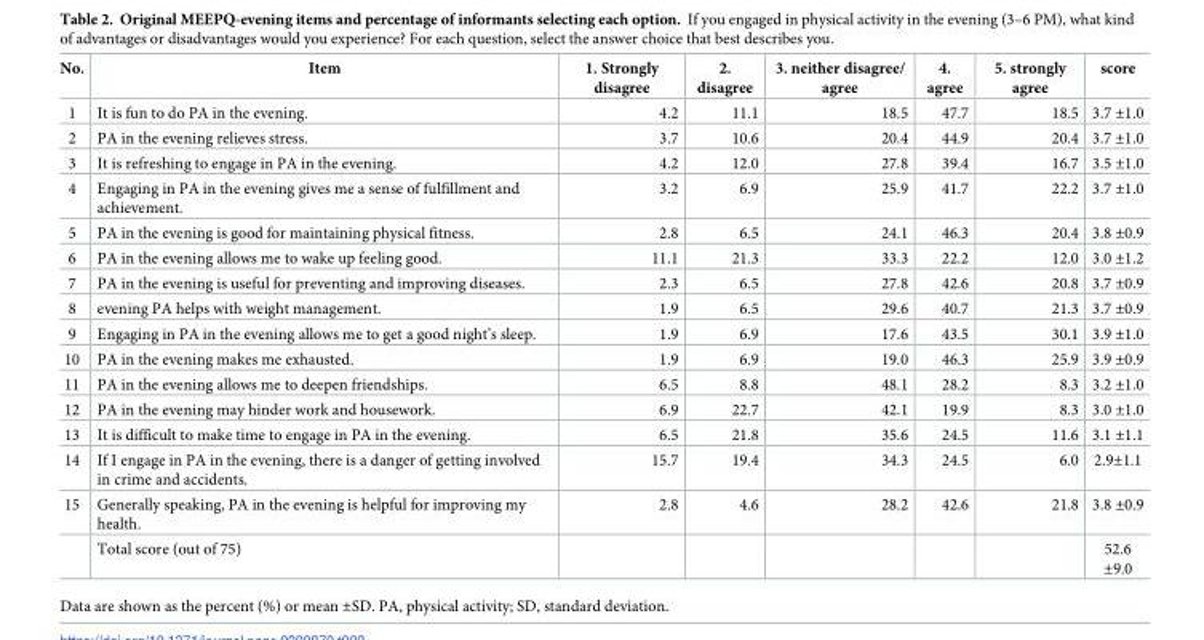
<table><thead><tr><td>No.</td><td>Item</td><td>1. Strongly disagree</td><td>2. disagree</td><td>3. neither disagree/ agree</td><td>4. agree</td><td>5. strongly agree</td><td>score</td></tr></thead><tbody><tr><td>1</td><td>It is fun to do PA in the evening.</td><td>4.2</td><td>11.1</td><td>18.5</td><td>47.7</td><td>18.5</td><td>3.7 ±1.0</td></tr><tr><td>2</td><td>PA in the evening relieves stress.</td><td>3.7</td><td>10.6</td><td>20.4</td><td>44.9</td><td>20.4</td><td>3.7 ±1.0</td></tr><tr><td>3</td><td>It is refreshing to engage in PA in the evening.</td><td>4.2</td><td>12.0</td><td>27.8</td><td>39.4</td><td>16.7</td><td>3.5 ±1.0</td></tr><tr><td>4</td><td>Engaging in PA in the evening gives me a sense of fulfillment and achievement.</td><td>3.2</td><td>6.9</td><td>25.9</td><td>41.7</td><td>22.2</td><td>3.7 ±1.0</td></tr><tr><td>5</td><td>PA in the evening is good for maintaining physical fitness.</td><td>2.8</td><td>6.5</td><td>24.1</td><td>46.3</td><td>20.4</td><td>3.8 ±0.9</td></tr><tr><td>6</td><td>PA in the evening allows me to wake up feeling good.</td><td>11.1</td><td>21.3</td><td>33.3</td><td>22.2</td><td>12.0</td><td>3.0 ±1.2</td></tr><tr><td>7</td><td>PA in the evening is useful for preventing and improving diseases.</td><td>2.3</td><td>6.5</td><td>27.8</td><td>42.6</td><td>20.8</td><td>3.7 ±0.9</td></tr><tr><td>8</td><td>evening PA helps with weight management.</td><td>1.9</td><td>6.5</td><td>29.6</td><td>40.7</td><td>21.3</td><td>3.7 ±0.9</td></tr><tr><td>9</td><td>Engaging in PA in the evening allows me to get a good night’s sleep.</td><td>1.9</td><td>6.9</td><td>17.6</td><td>43.5</td><td>30.1</td><td>3.9 ±1.0</td></tr><tr><td>10</td><td>PA in the evening makes me exhausted.</td><td>1.9</td><td>6.9</td><td>19.0</td><td>46.3</td><td>25.9</td><td>3.9 ±0.9</td></tr><tr><td>11</td><td>PA in the evening allows me to deepen friendships.</td><td>6.5</td><td>8.8</td><td>48.1</td><td>28.2</td><td>8.3</td><td>3.2 ±1.0</td></tr><tr><td>12</td><td>PA in the evening may hinder work and housework.</td><td>6.9</td><td>22.7</td><td>42.1</td><td>19.9</td><td>8.3</td><td>3.0 ±1.0</td></tr><tr><td>13</td><td>It is difficult to make time to engage in PA in the evening.</td><td>6.5</td><td>21.8</td><td>35.6</td><td>24.5</td><td>11.6</td><td>3.1 ±1.1</td></tr><tr><td>14</td><td>If I engage in PA in the evening, there is a danger of getting involved in crime and accidents.</td><td>15.7</td><td>19.4</td><td>34.3</td><td>24.5</td><td>6.0</td><td>2.9±1.1</td></tr><tr><td rowspan="2">15</td><td>Generally speaking, PA in the evening is helpful for improving my health.</td><td>2.8</td><td>4.6</td><td>28.2</td><td>42.6</td><td>21.8</td><td>3.8 ±0.9</td></tr><tr><td>Total score (out of 75)</td><td></td><td></td><td></td><td></td><td></td><td>52.6 ±9.0</td></tr></tbody></table>